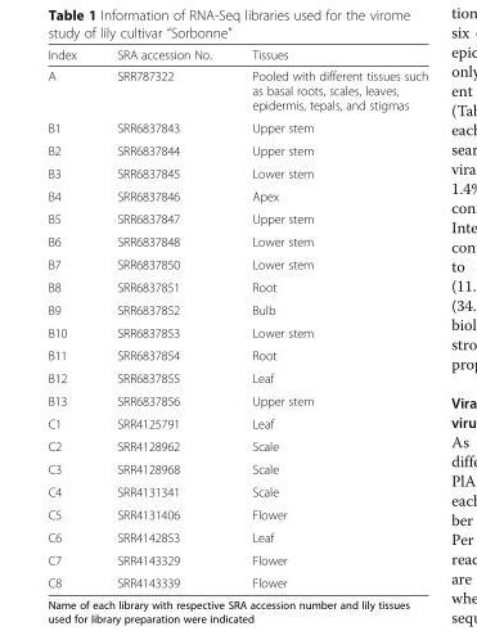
<table><thead><tr><td>Index</td><td>SRA accession No.</td><td>Tissues</td></tr></thead><tbody><tr><td>A</td><td>SRR787322</td><td>Pooled with different tissues such as basal roots, scales, leaves, epidermis, tepals, and stigmas</td></tr><tr><td>B1</td><td>SRR6837843</td><td>Upper stem</td></tr><tr><td>B2</td><td>SRR6837844</td><td>Upper stem</td></tr><tr><td>B3</td><td>SRR6837845</td><td>Lower stem</td></tr><tr><td>B4</td><td>SRR6837846</td><td>Apex</td></tr><tr><td>B5</td><td>SRR6837847</td><td>Upper stem</td></tr><tr><td>B6</td><td>SRR6837848</td><td>Lower stem</td></tr><tr><td>B7</td><td>SRR6837850</td><td>Lower stem</td></tr><tr><td>B8</td><td>SRR6837851</td><td>Root</td></tr><tr><td>B9</td><td>SRR6837852</td><td>Bulb</td></tr><tr><td>B10</td><td>SRR6837853</td><td>Lower stem</td></tr><tr><td>B11</td><td>SRR6837854</td><td>Root</td></tr><tr><td>B12</td><td>SRR6837855</td><td>Leaf</td></tr><tr><td>B13</td><td>SRR6837856</td><td>Upper stem</td></tr><tr><td>C1</td><td>SRR4125791</td><td>Leaf</td></tr><tr><td>C2</td><td>SRR4128962</td><td>Scale</td></tr><tr><td>C3</td><td>SRR4128968</td><td>Scale</td></tr><tr><td>C4</td><td>SRR4131341</td><td>Scale</td></tr><tr><td>C5</td><td>SRR4131406</td><td>Flower</td></tr><tr><td>C6</td><td>SRR4142853</td><td>Leaf</td></tr><tr><td>C7</td><td>SRR4143329</td><td>Flower</td></tr><tr><td>C8</td><td>SRR4143339</td><td>Flower</td></tr></tbody></table>